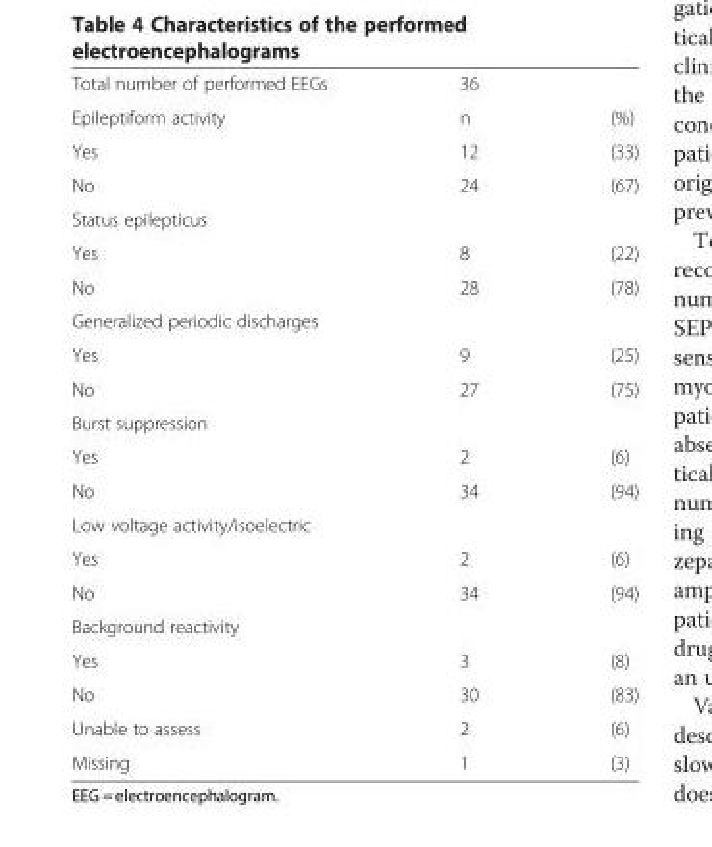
<table><tbody><tr><td>Total number of performed EEGs</td><td>36</td><td></td></tr><tr><td>Epileptiform activity</td><td>n</td><td>(%)</td></tr><tr><td>Yes</td><td>12</td><td>(33)</td></tr><tr><td>No</td><td>24</td><td>(67)</td></tr><tr><td colspan="3">Status epilepticus</td></tr><tr><td>Yes</td><td>8</td><td>(22)</td></tr><tr><td>No</td><td>28</td><td>(78)</td></tr><tr><td colspan="3">Generalized periodic discharges</td></tr><tr><td>Yes</td><td>9</td><td>(25)</td></tr><tr><td>No</td><td>27</td><td>(75)</td></tr><tr><td colspan="3">Burst suppression</td></tr><tr><td>Yes</td><td>2</td><td>(6)</td></tr><tr><td>No</td><td>34</td><td>(94)</td></tr><tr><td colspan="3">Low voltage activity/isoelectric</td></tr><tr><td>Yes</td><td>2</td><td>(6)</td></tr><tr><td>No</td><td>34</td><td>(94)</td></tr><tr><td colspan="3">Background reactivity</td></tr><tr><td>Yes</td><td>3</td><td>(8)</td></tr><tr><td>No</td><td>30</td><td>(83)</td></tr><tr><td>Unable to assess</td><td>2</td><td>(6)</td></tr><tr><td>Missing</td><td>1</td><td>(3)</td></tr></tbody></table>